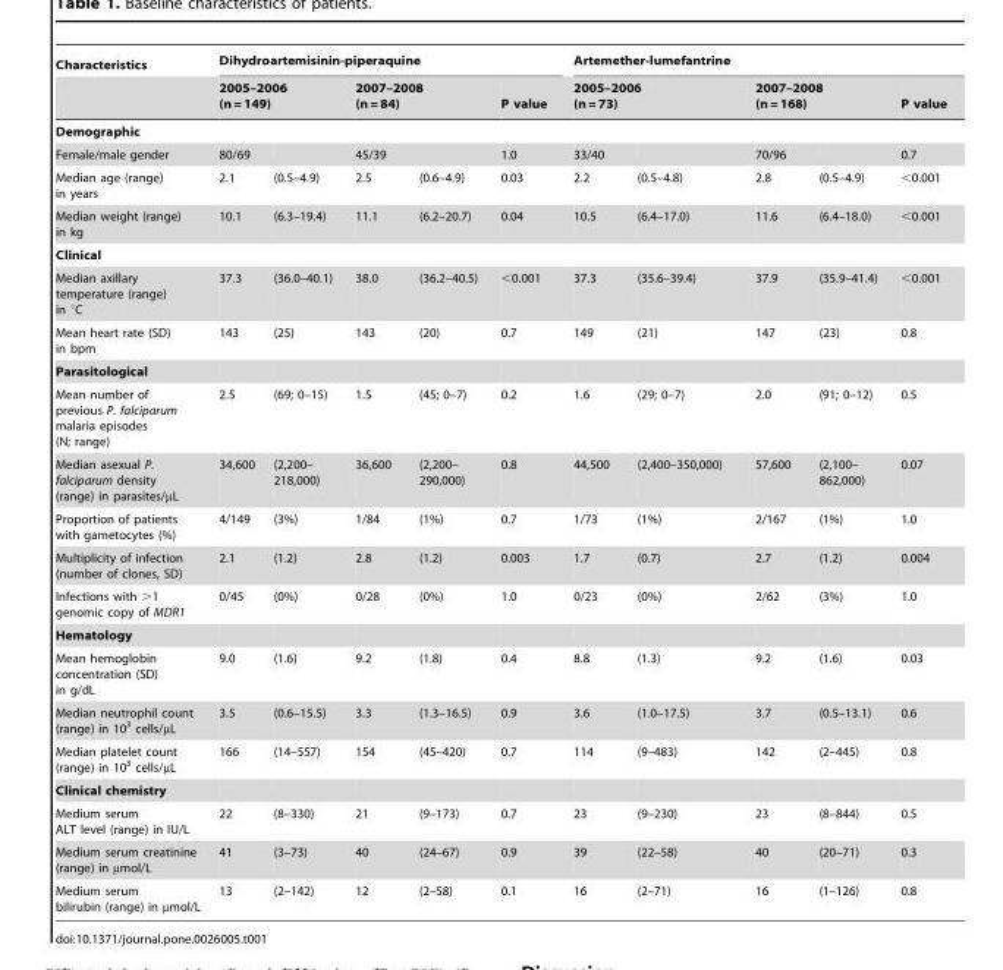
<table><thead><tr><td rowspan="3">Characteristics Demographic</td><td colspan="5">Dihydroartemisinin-piperaquine</td><td colspan="5">Artemether-lumefantrine</td></tr><tr><td colspan="2">2005–2006 (n = 149)</td><td colspan="2">2007–2008 (n = 84)</td><td rowspan="2">P value</td><td colspan="2">2005–2006 (n = 73)</td><td colspan="2">2007–2008 (n = 168)</td><td rowspan="2">P value</td></tr><tr><td></td><td></td><td></td><td></td><td></td><td></td><td></td><td></td></tr></thead><tbody><tr><td>Female/male gender</td><td>80/69</td><td></td><td>45/39</td><td></td><td>1.0</td><td>33/40</td><td></td><td>70/96</td><td></td><td>0.7</td></tr><tr><td>Median age (range) in years</td><td>2.1</td><td>(0.5–4.9)</td><td>2.5</td><td>(0.6–4.9)</td><td>0.03</td><td>2.2</td><td>(0.5–4.8)</td><td>2.8</td><td>(0.5–4.9)</td><td>&lt;0.001</td></tr><tr><td>Median weight (range) in kg</td><td>10.1</td><td>(6.3–19.4)</td><td>11.1</td><td>(6.2–20.7)</td><td>0.04</td><td>10.5</td><td>(6.4–17.0)</td><td>11.6</td><td>(6.4–18.0)</td><td>&lt;0.001</td></tr><tr><td colspan="11">Clinical</td></tr><tr><td>Median axillary temperature (range) in °C</td><td>37.3</td><td>(36.0–40.1)</td><td>38.0</td><td>(36.2–40.5)</td><td>&lt;0.001</td><td>37.3</td><td>(35.6–39.4)</td><td>37.9</td><td>(35.9–41.4)</td><td>&lt;0.001</td></tr><tr><td>Mean heart rate (SD) in bpm</td><td>143</td><td>(25)</td><td>143</td><td>(20)</td><td>0.7</td><td>149</td><td>(21)</td><td>147</td><td>(23)</td><td>0.8</td></tr><tr><td colspan="11">Parasitological</td></tr><tr><td>Mean number of previous P. falciparum malaria episodes (N; range)</td><td>2.5</td><td>(69; 0–15)</td><td>1.5</td><td>(45; 0–7)</td><td>0.2</td><td>1.6</td><td>(29; 0–7)</td><td>2.0</td><td>(91; 0–12)</td><td>0.5</td></tr><tr><td>Median asexual P. falciparum density (range) in parasites/µL</td><td>34,600</td><td>(2,200– 218,000)</td><td>36,600</td><td>(2,200– 290,000)</td><td>0.8</td><td>44,500</td><td>(2,400–350,000)</td><td>57,600</td><td>(2,100– 862,000)</td><td>0.07</td></tr><tr><td>Proportion of patients with gametocytes (%)</td><td>4/149</td><td>(3%)</td><td>1/84</td><td>(1%)</td><td>0.7</td><td>1/73</td><td>(1%)</td><td>2/167</td><td>(1%)</td><td>1.0</td></tr><tr><td>Multiplicity of infection (number of clones, SD)</td><td>2.1</td><td>(1.2)</td><td>2.8</td><td>(1.2)</td><td>0.003</td><td>1.7</td><td>(0.7)</td><td>2.7</td><td>(1.2)</td><td>0.004</td></tr><tr><td>Infections with &gt;1 genomic copy of MDR1</td><td>0/45</td><td>(0%)</td><td>0/28</td><td>(0%)</td><td>1.0</td><td>0/23</td><td>(0%)</td><td>2/62</td><td>(3%)</td><td>1.0</td></tr><tr><td colspan="11">Hematology</td></tr><tr><td>Mean hemoglobin concentration (SD) in g/dL</td><td>9.0</td><td>(1.6)</td><td>9.2</td><td>(1.8)</td><td>0.4</td><td>8.8</td><td>(1.3)</td><td>9.2</td><td>(1.6)</td><td>0.03</td></tr><tr><td>Median neutrophil count (range) in 10<sup>3</sup> cells/µL</td><td>3.5</td><td>(0.6–15.5)</td><td>3.3</td><td>(1.3–16.5)</td><td>0.9</td><td>3.6</td><td>(1.0–17.5)</td><td>3.7</td><td>(0.5–13.1)</td><td>0.6</td></tr><tr><td>Median platelet count (range) in 10<sup>3</sup> cells/µL</td><td>166</td><td>(14–557)</td><td>154</td><td>(45–420)</td><td>0.7</td><td>114</td><td>(9–483)</td><td>142</td><td>(2–445)</td><td>0.8</td></tr><tr><td colspan="11">Clinical chemistry</td></tr><tr><td>Medium serum ALT level (range) in IU/L</td><td>22</td><td>(8–330)</td><td>21</td><td>(9–173)</td><td>0.7</td><td>23</td><td>(9–230)</td><td>23</td><td>(8–844)</td><td>0.5</td></tr><tr><td>Medium serum creatinine (range) in µmol/L</td><td>41</td><td>(3–73)</td><td>40</td><td>(24–67)</td><td>0.9</td><td>39</td><td>(22–58)</td><td>40</td><td>(20–71)</td><td>0.3</td></tr><tr><td>Medium serum bilirubin (range) in µmol/L</td><td>13</td><td>(2–142)</td><td>12</td><td>(2–58)</td><td>0.1</td><td>16</td><td>(2–71)</td><td>16</td><td>(1–126)</td><td>0.8</td></tr></tbody></table>